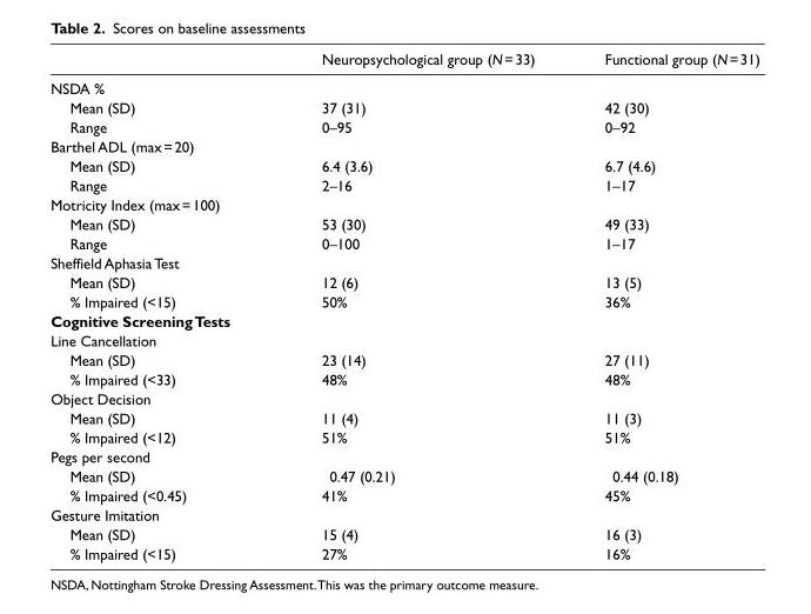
<table><thead><tr><td></td><td>Neuropsychological group (N = 33)</td><td>Functional group (N = 31)</td></tr></thead><tbody><tr><td colspan="3">NSDA %</td></tr><tr><td>Mean (SD)</td><td>37 (31)</td><td>42 (30)</td></tr><tr><td>Range</td><td>0–95</td><td>0–92</td></tr><tr><td colspan="3">Barthel ADL (max = 20)</td></tr><tr><td>Mean (SD)</td><td>6.4 (3.6)</td><td>6.7 (4.6)</td></tr><tr><td>Range</td><td>2–16</td><td>1–17</td></tr><tr><td colspan="3">Motricity Index (max = 100)</td></tr><tr><td>Mean (SD)</td><td>53 (30)</td><td>49 (33)</td></tr><tr><td>Range</td><td>0–100</td><td>1–17</td></tr><tr><td colspan="3">Sheffield Aphasia Test</td></tr><tr><td>Mean (SD)</td><td>12 (6)</td><td>13 (5)</td></tr><tr><td>% Impaired (&lt;15)</td><td>50%</td><td>36%</td></tr><tr><td colspan="3">Cognitive Screening Tests</td></tr><tr><td colspan="3">Line Cancellation</td></tr><tr><td>Mean (SD)</td><td>23 (14)</td><td>27 (11)</td></tr><tr><td>% Impaired (&lt;33)</td><td>48%</td><td>48%</td></tr><tr><td colspan="3">Object Decision</td></tr><tr><td>Mean (SD)</td><td>11 (4)</td><td>11 (3)</td></tr><tr><td>% Impaired (&lt;12)</td><td>51%</td><td>51%</td></tr><tr><td colspan="3">Pegs per second</td></tr><tr><td>Mean (SD)</td><td>0.47 (0.21)</td><td>0.44 (0.18)</td></tr><tr><td>% Impaired (&lt;0.45)</td><td>41%</td><td>45%</td></tr><tr><td colspan="3">Gesture Imitation</td></tr><tr><td>Mean (SD)</td><td>15 (4)</td><td>16 (3)</td></tr><tr><td>% Impaired (&lt;15)</td><td>27%</td><td>16%</td></tr></tbody></table>